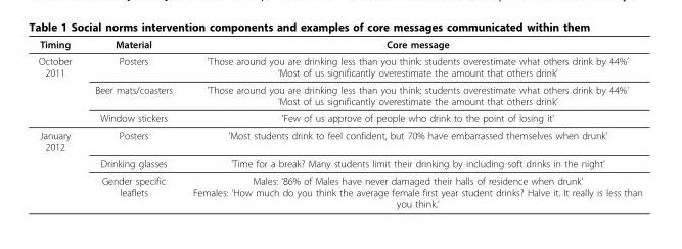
<table><thead><tr><td>Timing</td><td>Material</td><td>Core message</td></tr></thead><tbody><tr><td rowspan="3">October 2011</td><td>Posters</td><td>’Those around you are drinking less than you think: students overestimate what others drink by 44%’ ’Most of us significantly overestimate the amount that others drink’</td></tr><tr><td>Beer mats/coasters</td><td>’Those around you are drinking less than you think: students overestimate what others drink by 44%’ ’Most of us significantly overestimate the amount that others drink’</td></tr><tr><td>Window stickers</td><td>’Few of us approve of people who drink to the point of losing it’</td></tr><tr><td rowspan="3">January 2012</td><td>Posters</td><td>’Most students drink to feel confident, but 70% have embarrassed themselves when drunk’</td></tr><tr><td>Drinking glasses</td><td>’Time for a break? Many students limit their drinking by including soft drinks in the night’</td></tr><tr><td>Gender specific leaflets</td><td>Males: ‘86% of Males have never damaged their halls of residence when drunk’ Females: ‘How much do you think the average female first year student drinks? Halve it. It really is less than you think.’</td></tr></tbody></table>